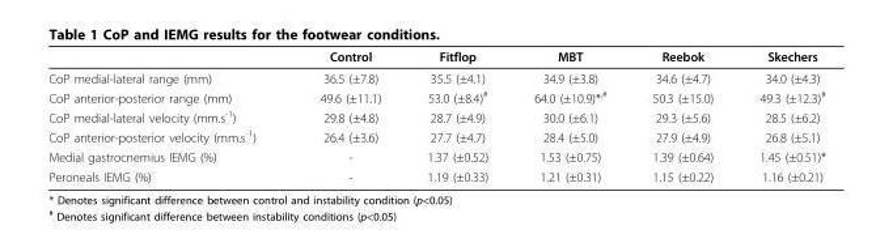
<table><thead><tr><td></td><td>Control</td><td>Fitflop</td><td>MBT</td><td>Reebok</td><td>Skechers</td></tr></thead><tbody><tr><td>CoP medial-lateral range (mm)</td><td>36.5 (±7.8)</td><td>35.5 (±4.1)</td><td>34.9 (±3.8)</td><td>34.6 (±4.7)</td><td>34.0 (±4.3)</td></tr><tr><td>CoP anterior-posterior range (mm)</td><td>49.6 (±11.1)</td><td>53.0 (±8.4)<sup>#</sup></td><td>64.0 (±10.9)*<sup>,#</sup></td><td>50.3 (±15.0)</td><td>49.3 (±12.3)<sup>#</sup></td></tr><tr><td>CoP medial-lateral velocity (mm.s<sup>-1</sup>)</td><td>29.8 (±4.8)</td><td>28.7 (±4.9)</td><td>30.0 (±6.1)</td><td>29.3 (±5.6)</td><td>28.5 (±6.2)</td></tr><tr><td>CoP anterior-posterior velocity (mm.s<sup>-1</sup>)</td><td>26.4 (±3.6)</td><td>27.7 (±4.7)</td><td>28.4 (±5.0)</td><td>27.9 (±4.9)</td><td>26.8 (±5.1)</td></tr><tr><td>Medial gastrocnemius IEMG (%)</td><td>-</td><td>1.37 (±0.52)</td><td>1.53 (±0.75)</td><td>1.39 (±0.64)</td><td>1.45 (±0.51)*</td></tr><tr><td>Peroneals IEMG (%)</td><td>-</td><td>1.19 (±0.33)</td><td>1.21 (±0.31)</td><td>1.15 (±0.22)</td><td>1.16 (±0.21)</td></tr></tbody></table>